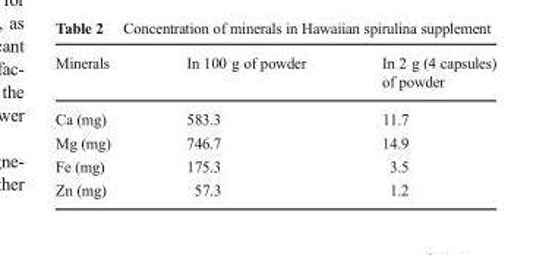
<table><thead><tr><td>Minerals</td><td>In 100 g of powder</td><td>In 2 g (4 capsules) of powder</td></tr></thead><tbody><tr><td>Ca (mg)</td><td>583.3</td><td>11.7</td></tr><tr><td>Mg (mg)</td><td>746.7</td><td>14.9</td></tr><tr><td>Fe (mg)</td><td>175.3</td><td>3.5</td></tr><tr><td>Zn (mg)</td><td>57.3</td><td>1.2</td></tr></tbody></table>